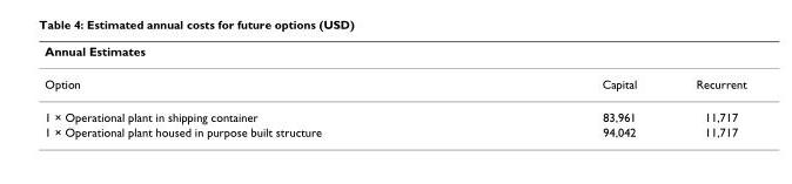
<table><thead><tr><td>Annual Estimates</td><td></td><td></td></tr></thead><tbody><tr><td>Option</td><td>Capital</td><td>Recurrent</td></tr><tr><td>1 × Operational plant in shipping container</td><td>83,961</td><td>11,717</td></tr><tr><td>1 × Operational plant housed in purpose built structure</td><td>94,042</td><td>11,717</td></tr></tbody></table>